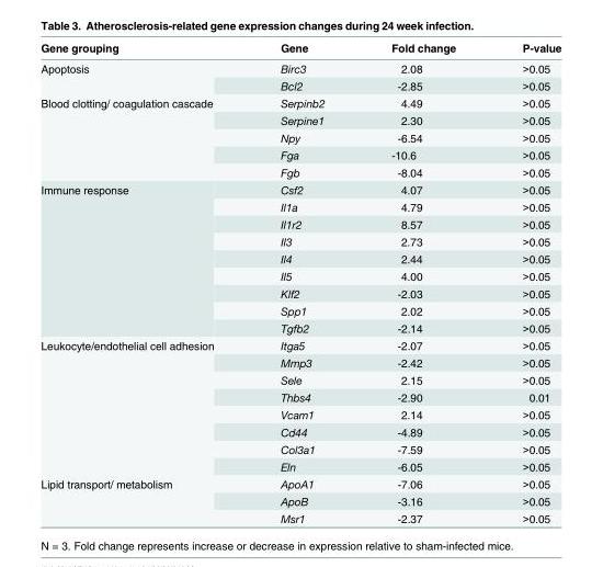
<table><thead><tr><td>Gene grouping</td><td>Gene</td><td>Fold change</td><td>P-value</td></tr></thead><tbody><tr><td rowspan="2">Apoptosis</td><td>Birc3</td><td>2.08</td><td>&gt;0.05</td></tr><tr><td>Bcl2</td><td>-2.85</td><td>&gt;0.05</td></tr><tr><td rowspan="5">Blood clotting/ coagulation cascade</td><td>Serpinb2</td><td>4.49</td><td>&gt;0.05</td></tr><tr><td>Serpine1</td><td>2.30</td><td>&gt;0.05</td></tr><tr><td>Npy</td><td>-6.54</td><td>&gt;0.05</td></tr><tr><td>Fga</td><td>-10.6</td><td>&gt;0.05</td></tr><tr><td>Fgb</td><td>-8.04</td><td>&gt;0.05</td></tr><tr><td rowspan="9">Immune response</td><td>Csf2</td><td>4.07</td><td>&gt;0.05</td></tr><tr><td>Il1a</td><td>4.79</td><td>&gt;0.05</td></tr><tr><td>Il1r2</td><td>8.57</td><td>&gt;0.05</td></tr><tr><td>Il3</td><td>2.73</td><td>&gt;0.05</td></tr><tr><td>Il4</td><td>2.44</td><td>&gt;0.05</td></tr><tr><td>Il5</td><td>4.00</td><td>&gt;0.05</td></tr><tr><td>Klf2</td><td>-2.03</td><td>&gt;0.05</td></tr><tr><td>Spp1</td><td>2.02</td><td>&gt;0.05</td></tr><tr><td>Tgfb2</td><td>-2.14</td><td>&gt;0.05</td></tr><tr><td rowspan="8">Leukocyte/endothelial cell adhesion</td><td>Itga5</td><td>-2.07</td><td>&gt;0.05</td></tr><tr><td>Mmp3</td><td>-2.42</td><td>&gt;0.05</td></tr><tr><td>Sele</td><td>2.15</td><td>&gt;0.05</td></tr><tr><td>Thbs4</td><td>-2.90</td><td>0.01</td></tr><tr><td>Vcam1</td><td>2.14</td><td>&gt;0.05</td></tr><tr><td>Cd44</td><td>-4.89</td><td>&gt;0.05</td></tr><tr><td>Col3a1</td><td>-7.59</td><td>&gt;0.05</td></tr><tr><td>Eln</td><td>-6.05</td><td>&gt;0.05</td></tr><tr><td rowspan="3">Lipid transport/ metabolism</td><td>ApoA1</td><td>-7.06</td><td>&gt;0.05</td></tr><tr><td>ApoB</td><td>-3.16</td><td>&gt;0.05</td></tr><tr><td>Msr1</td><td>-2.37</td><td>&gt;0.05</td></tr></tbody></table>